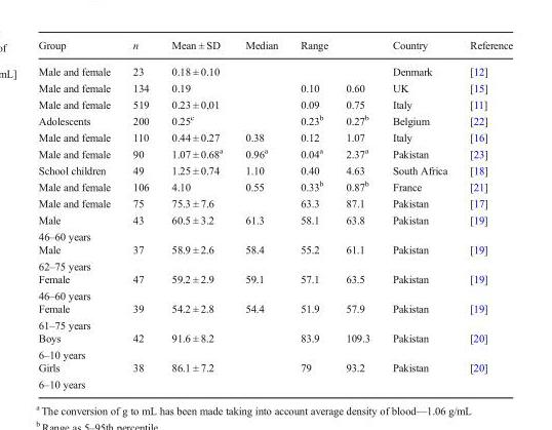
<table><thead><tr><td rowspan="2">Group Male and female</td><td rowspan="2">n 23</td><td rowspan="2">Mean ± SD 0.18 ± 0.10</td><td rowspan="2">Median</td><td colspan="2">Range</td><td rowspan="2">Country Denmark</td><td rowspan="2">Reference [12]</td></tr><tr><td></td><td></td></tr></thead><tbody><tr><td>Male and female</td><td>134</td><td>0.19</td><td></td><td>0.10</td><td>0.60</td><td>UK</td><td>[15]</td></tr><tr><td>Male and female</td><td>519</td><td>0.23 ± 0,01</td><td></td><td>0.09</td><td>0.75</td><td>Italy</td><td>[11]</td></tr><tr><td>Adolescents</td><td>200</td><td>0.25<sup>c</sup></td><td></td><td>0.23<sup>b</sup></td><td>0.27<sup>b</sup></td><td>Belgium</td><td>[22]</td></tr><tr><td>Male and female</td><td>110</td><td>0.44 ± 0.27</td><td>0.38</td><td>0.12</td><td>1.07</td><td>Italy</td><td>[16]</td></tr><tr><td>Male and female</td><td>90</td><td>1.07 ± 0.68<sup>a</sup></td><td>0.96<sup>a</sup></td><td>0.04<sup>a</sup></td><td>2.37<sup>a</sup></td><td>Pakistan</td><td>[23]</td></tr><tr><td>School children</td><td>49</td><td>1.25 ± 0.74</td><td>1.10</td><td>0.40</td><td>4.63</td><td>South Africa</td><td>[18]</td></tr><tr><td>Male and female</td><td>106</td><td>4.10</td><td>0.55</td><td>0.33<sup>b</sup></td><td>0.87<sup>b</sup></td><td>France</td><td>[21]</td></tr><tr><td>Male and female</td><td>75</td><td>75.3 ± 7.6</td><td></td><td>63.3</td><td>87.1</td><td>Pakistan</td><td>[17]</td></tr><tr><td>Male 46–60 years</td><td>43</td><td>60.5 ± 3.2</td><td>61.3</td><td>58.1</td><td>63.8</td><td>Pakistan</td><td>[19]</td></tr><tr><td>Male 62–75 years</td><td>37</td><td>58.9 ± 2.6</td><td>58.4</td><td>55.2</td><td>61.1</td><td>Pakistan</td><td>[19]</td></tr><tr><td>Female 46–60 years</td><td>47</td><td>59.2 ± 2.9</td><td>59.1</td><td>57.1</td><td>63.5</td><td>Pakistan</td><td>[19]</td></tr><tr><td>Female 61–75 years</td><td>39</td><td>54.2 ± 2.8</td><td>54.4</td><td>51.9</td><td>57.9</td><td>Pakistan</td><td>[19]</td></tr><tr><td>Boys 6–10 years</td><td>42</td><td>91.6 ± 8.2</td><td></td><td>83.9</td><td>109.3</td><td>Pakistan</td><td>[20]</td></tr><tr><td>Girls 6–10 years</td><td>38</td><td>86.1 ± 7.2</td><td></td><td>79</td><td>93.2</td><td>Pakistan</td><td>[20]</td></tr></tbody></table>